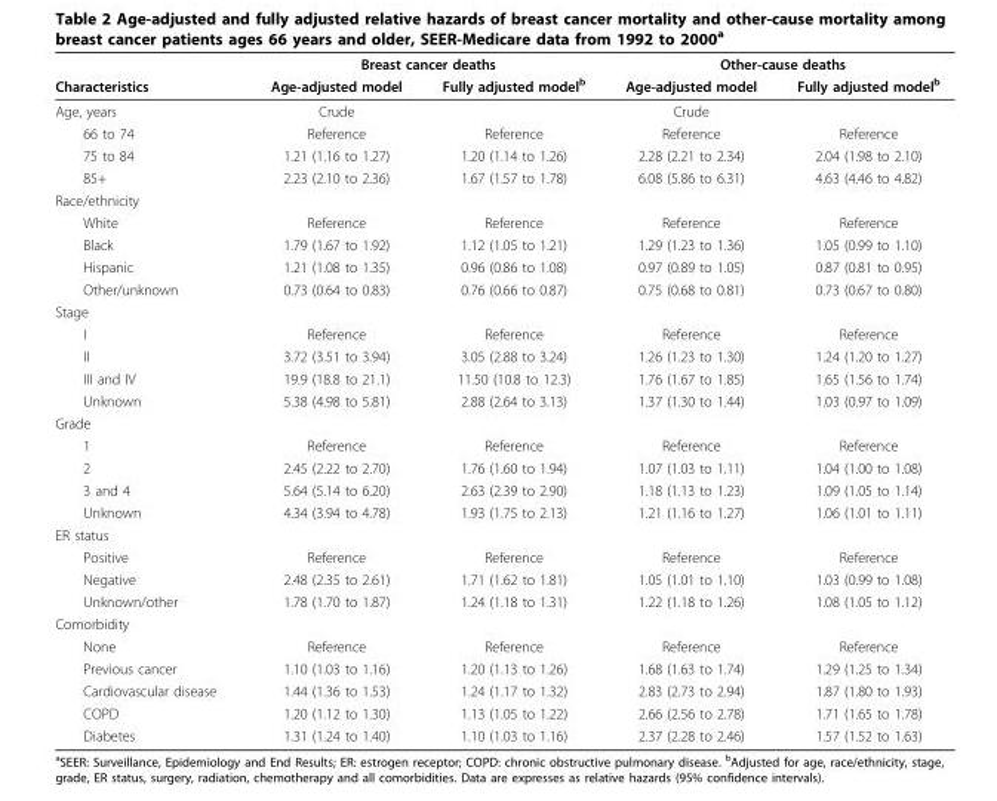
<table><thead><tr><td rowspan="2">Characteristics</td><td colspan="2">Breast cancer deaths</td><td colspan="2">Other-cause deaths</td></tr><tr><td>Age-adjusted model</td><td>Fully adjusted model<sup>b</sup></td><td>Age-adjusted model</td><td>Fully adjusted model<sup>b</sup></td></tr></thead><tbody><tr><td>Age, years</td><td>Crude</td><td></td><td>Crude</td><td></td></tr><tr><td>66 to 74</td><td>Reference</td><td>Reference</td><td>Reference</td><td>Reference</td></tr><tr><td>75 to 84</td><td>1.21 (1.16 to 1.27)</td><td>1.20 (1.14 to 1.26)</td><td>2.28 (2.21 to 2.34)</td><td>2.04 (1.98 to 2.10)</td></tr><tr><td>85+</td><td>2.23 (2.10 to 2.36)</td><td>1.67 (1.57 to 1.78)</td><td>6.08 (5.86 to 6.31)</td><td>4.63 (4.46 to 4.82)</td></tr><tr><td colspan="5">Race/ethnicity</td></tr><tr><td>White</td><td>Reference</td><td>Reference</td><td>Reference</td><td>Reference</td></tr><tr><td>Black</td><td>1.79 (1.67 to 1.92)</td><td>1.12 (1.05 to 1.21)</td><td>1.29 (1.23 to 1.36)</td><td>1.05 (0.99 to 1.10)</td></tr><tr><td>Hispanic</td><td>1.21 (1.08 to 1.35)</td><td>0.96 (0.86 to 1.08)</td><td>0.97 (0.89 to 1.05)</td><td>0.87 (0.81 to 0.95)</td></tr><tr><td>Other/unknown</td><td>0.73 (0.64 to 0.83)</td><td>0.76 (0.66 to 0.87)</td><td>0.75 (0.68 to 0.81)</td><td>0.73 (0.67 to 0.80)</td></tr><tr><td colspan="5">Stage</td></tr><tr><td>I</td><td>Reference</td><td>Reference</td><td>Reference</td><td>Reference</td></tr><tr><td>II</td><td>3.72 (3.51 to 3.94)</td><td>3.05 (2.88 to 3.24)</td><td>1.26 (1.23 to 1.30)</td><td>1.24 (1.20 to 1.27)</td></tr><tr><td>III and IV</td><td>19.9 (18.8 to 21.1)</td><td>11.50 (10.8 to 12.3)</td><td>1.76 (1.67 to 1.85)</td><td>1.65 (1.56 to 1.74)</td></tr><tr><td>Unknown</td><td>5.38 (4.98 to 5.81)</td><td>2.88 (2.64 to 3.13)</td><td>1.37 (1.30 to 1.44)</td><td>1.03 (0.97 to 1.09)</td></tr><tr><td colspan="5">Grade</td></tr><tr><td>1</td><td>Reference</td><td>Reference</td><td>Reference</td><td>Reference</td></tr><tr><td>2</td><td>2.45 (2.22 to 2.70)</td><td>1.76 (1.60 to 1.94)</td><td>1.07 (1.03 to 1.11)</td><td>1.04 (1.00 to 1.08)</td></tr><tr><td>3 and 4</td><td>5.64 (5.14 to 6.20)</td><td>2.63 (2.39 to 2.90)</td><td>1.18 (1.13 to 1.23)</td><td>1.09 (1.05 to 1.14)</td></tr><tr><td>Unknown</td><td>4.34 (3.94 to 4.78)</td><td>1.93 (1.75 to 2.13)</td><td>1.21 (1.16 to 1.27)</td><td>1.06 (1.01 to 1.11)</td></tr><tr><td colspan="5">ER status</td></tr><tr><td>Positive</td><td>Reference</td><td>Reference</td><td>Reference</td><td>Reference</td></tr><tr><td>Negative</td><td>2.48 (2.35 to 2.61)</td><td>1.71 (1.62 to 1.81)</td><td>1.05 (1.01 to 1.10)</td><td>1.03 (0.99 to 1.08)</td></tr><tr><td>Unknown/other</td><td>1.78 (1.70 to 1.87)</td><td>1.24 (1.18 to 1.31)</td><td>1.22 (1.18 to 1.26)</td><td>1.08 (1.05 to 1.12)</td></tr><tr><td colspan="5">Comorbidity</td></tr><tr><td>None</td><td>Reference</td><td>Reference</td><td>Reference</td><td>Reference</td></tr><tr><td>Previous cancer</td><td>1.10 (1.03 to 1.16)</td><td>1.20 (1.13 to 1.26)</td><td>1.68 (1.63 to 1.74)</td><td>1.29 (1.25 to 1.34)</td></tr><tr><td>Cardiovascular disease</td><td>1.44 (1.36 to 1.53)</td><td>1.24 (1.17 to 1.32)</td><td>2.83 (2.73 to 2.94)</td><td>1.87 (1.80 to 1.93)</td></tr><tr><td>COPD</td><td>1.20 (1.12 to 1.30)</td><td>1.13 (1.05 to 1.22)</td><td>2.66 (2.56 to 2.78)</td><td>1.71 (1.65 to 1.78)</td></tr><tr><td>Diabetes</td><td>1.31 (1.24 to 1.40)</td><td>1.10 (1.03 to 1.16)</td><td>2.37 (2.28 to 2.46)</td><td>1.57 (1.52 to 1.63)</td></tr></tbody></table>